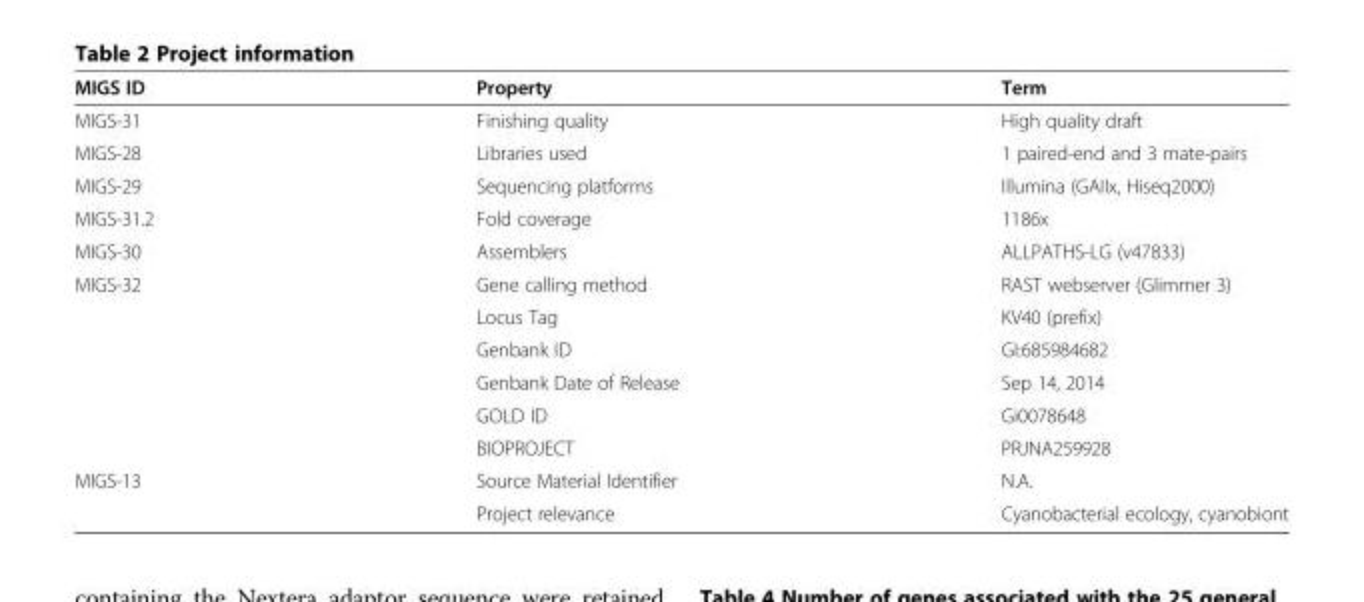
<table><thead><tr><td>MIGS ID</td><td>Property</td><td>Term</td></tr></thead><tbody><tr><td>MIGS-31</td><td>Finishing quality</td><td>High quality draft</td></tr><tr><td>MIGS-28</td><td>Libraries used</td><td>1 paired-end and 3 mate-pairs</td></tr><tr><td>MIGS-29</td><td>Sequencing platforms</td><td>Illumina (GAIIx, Hiseq2000)</td></tr><tr><td>MIGS-31.2</td><td>Fold coverage</td><td>1186x</td></tr><tr><td>MIGS-30</td><td>Assemblers</td><td>ALLPATHS-LG (v47833)</td></tr><tr><td rowspan="6">MIGS-32</td><td>Gene calling method</td><td>RAST webserver (Glimmer 3)</td></tr><tr><td>Locus Tag</td><td>KV40 (prefix)</td></tr><tr><td>Genbank ID</td><td>GI:685984682</td></tr><tr><td>Genbank Date of Release</td><td>Sep 14, 2014</td></tr><tr><td>GOLD ID</td><td>Gi0078648</td></tr><tr><td>BIOPROJECT</td><td>PRJNA259928</td></tr><tr><td rowspan="2">MIGS-13</td><td>Source Material Identifier</td><td>N.A.</td></tr><tr><td>Project relevance</td><td>Cyanobacterial ecology, cyanobiont</td></tr></tbody></table>